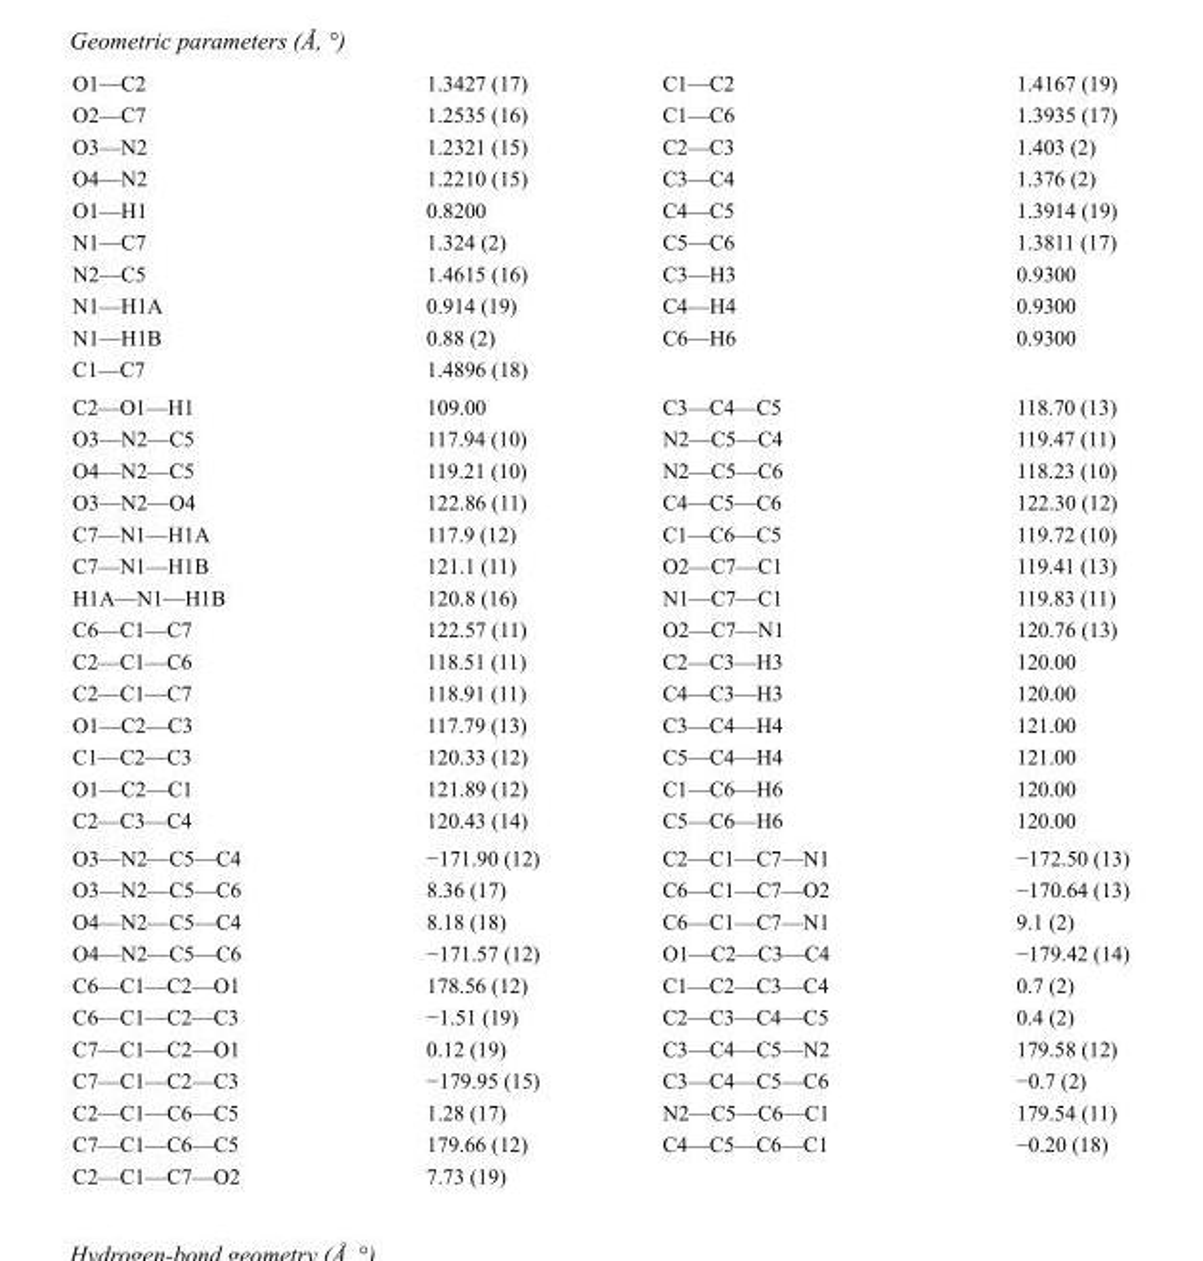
<table><tbody><tr><td>O1—C2</td><td>1.3427 (17)</td><td>C1—C2</td><td>1.4167 (19)</td></tr><tr><td>O2—C7</td><td>1.2535 (16)</td><td>C1—C6</td><td>1.3935 (17)</td></tr><tr><td>O3—N2</td><td>1.2321 (15)</td><td>C2—C3</td><td>1.403 (2)</td></tr><tr><td>O4—N2</td><td>1.2210 (15)</td><td>C3—C4</td><td>1.376 (2)</td></tr><tr><td>O1—H1</td><td>0.8200</td><td>C4—C5</td><td>1.3914 (19)</td></tr><tr><td>N1—C7</td><td>1.324 (2)</td><td>C5—C6</td><td>1.3811 (17)</td></tr><tr><td>N2—C5</td><td>1.4615 (16)</td><td>C3—H3</td><td>0.9300</td></tr><tr><td>N1—H1A</td><td>0.914 (19)</td><td>C4—H4</td><td>0.9300</td></tr><tr><td>N1—H1B</td><td>0.88 (2)</td><td>C6—H6</td><td>0.9300</td></tr><tr><td>C1—C7</td><td>1.4896 (18)</td><td></td><td></td></tr><tr><td>C2—O1—H1</td><td>109.00</td><td>C3—C4—C5</td><td>118.70 (13)</td></tr><tr><td>O3—N2—C5</td><td>117.94 (10)</td><td>N2—C5—C4</td><td>119.47 (11)</td></tr><tr><td>O4—N2—C5</td><td>119.21 (10)</td><td>N2—C5—C6</td><td>118.23 (10)</td></tr><tr><td>O3—N2—O4</td><td>122.86 (11)</td><td>C4—C5—C6</td><td>122.30 (12)</td></tr><tr><td>C7—N1—H1A</td><td>117.9 (12)</td><td>C1—C6—C5</td><td>119.72 (10)</td></tr><tr><td>C7—N1—H1B</td><td>121.1 (11)</td><td>O2—C7—C1</td><td>119.41 (13)</td></tr><tr><td>H1A—N1—H1B</td><td>120.8 (16)</td><td>N1—C7—C1</td><td>119.83 (11)</td></tr><tr><td>C6—C1—C7</td><td>122.57 (11)</td><td>O2—C7—N1</td><td>120.76 (13)</td></tr><tr><td>C2—C1—C6</td><td>118.51 (11)</td><td>C2—C3—H3</td><td>120.00</td></tr><tr><td>C2—C1—C7</td><td>118.91 (11)</td><td>C4—C3—H3</td><td>120.00</td></tr><tr><td>O1—C2—C3</td><td>117.79 (13)</td><td>C3—C4—H4</td><td>121.00</td></tr><tr><td>C1—C2—C3</td><td>120.33 (12)</td><td>C5—C4—H4</td><td>121.00</td></tr><tr><td>O1—C2—C1</td><td>121.89 (12)</td><td>C1—C6—H6</td><td>120.00</td></tr><tr><td>C2—C3—C4</td><td>120.43 (14)</td><td>C5—C6—H6</td><td>120.00</td></tr><tr><td>O3—N2—C5—C4</td><td>−171.90 (12)</td><td>C2—C1—C7—N1</td><td>−172.50 (13)</td></tr><tr><td>O3—N2—C5—C6</td><td>8.36 (17)</td><td>C6—C1—C7—O2</td><td>−170.64 (13)</td></tr><tr><td>O4—N2—C5—C4</td><td>8.18 (18)</td><td>C6—C1—C7—N1</td><td>9.1 (2)</td></tr><tr><td>O4—N2—C5—C6</td><td>−171.57 (12)</td><td>O1—C2—C3—C4</td><td>−179.42 (14)</td></tr><tr><td>C6—C1—C2—O1</td><td>178.56 (12)</td><td>C1—C2—C3—C4</td><td>0.7 (2)</td></tr><tr><td>C6—C1—C2—C3</td><td>−1.51 (19)</td><td>C2—C3—C4—C5</td><td>0.4 (2)</td></tr><tr><td>C7—C1—C2—O1</td><td>0.12 (19)</td><td>C3—C4—C5—N2</td><td>179.58 (12)</td></tr><tr><td>C7—C1—C2—C3</td><td>−179.95 (15)</td><td>C3—C4—C5—C6</td><td>−0.7 (2)</td></tr><tr><td>C2—C1—C6—C5</td><td>1.28 (17)</td><td>N2—C5—C6—C1</td><td>179.54 (11)</td></tr><tr><td>C7—C1—C6—C5</td><td>179.66 (12)</td><td>C4—C5—C6—C1</td><td>−0.20 (18)</td></tr><tr><td>C2—C1—C7—O2</td><td>7.73 (19)</td><td></td><td></td></tr></tbody></table>